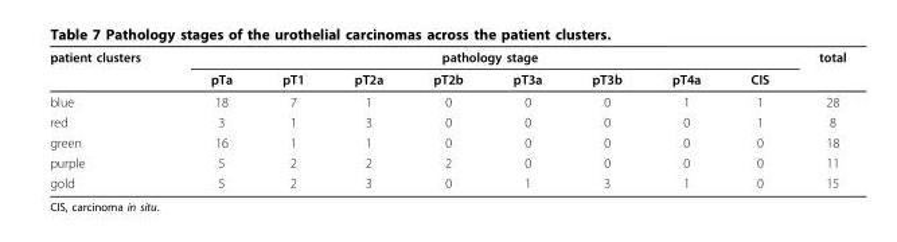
<table><thead><tr><td rowspan="2">patient clusters</td><td colspan="8">pathology stage</td><td rowspan="2">total</td></tr><tr><td>pTa</td><td>pT1</td><td>pT2a</td><td>pT2b</td><td>pT3a</td><td>pT3b</td><td>pT4a</td><td>CIS</td></tr></thead><tbody><tr><td>blue</td><td>18</td><td>7</td><td>1</td><td>0</td><td>0</td><td>0</td><td>1</td><td>1</td><td>28</td></tr><tr><td>red</td><td>3</td><td>1</td><td>3</td><td>0</td><td>0</td><td>0</td><td>0</td><td>1</td><td>8</td></tr><tr><td>green</td><td>16</td><td>1</td><td>1</td><td>0</td><td>0</td><td>0</td><td>0</td><td>0</td><td>18</td></tr><tr><td>purple</td><td>5</td><td>2</td><td>2</td><td>2</td><td>0</td><td>0</td><td>0</td><td>0</td><td>11</td></tr><tr><td>gold</td><td>5</td><td>2</td><td>3</td><td>0</td><td>1</td><td>3</td><td>1</td><td>0</td><td>15</td></tr></tbody></table>